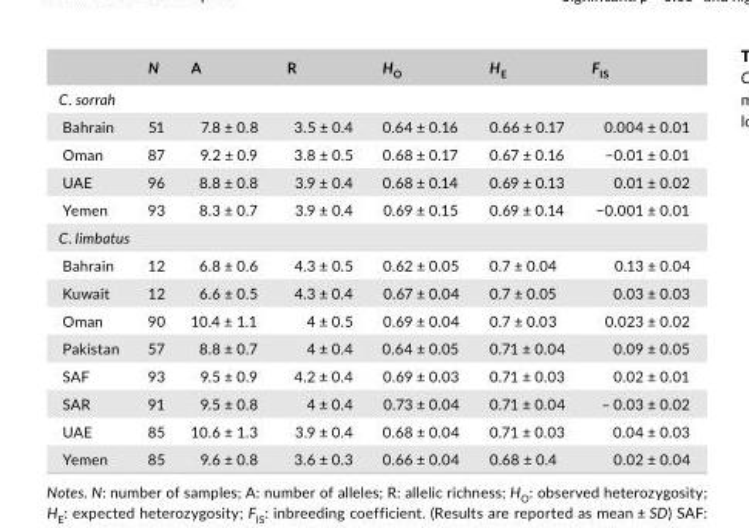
<table><thead><tr><td></td><td>N</td><td>A</td><td>R</td><td>H<sub>O</sub></td><td>H<sub>E</sub></td><td>F<sub>IS</sub></td></tr></thead><tbody><tr><td colspan="7">C. sorrah</td></tr><tr><td>Bahrain</td><td>51</td><td>7.8 ± 0.8</td><td>3.5 ± 0.4</td><td>0.64 ± 0.16</td><td>0.66 ± 0.17</td><td>0.004 ± 0.01</td></tr><tr><td>Oman</td><td>87</td><td>9.2 ± 0.9</td><td>3.8 ± 0.5</td><td>0.68 ± 0.17</td><td>0.67 ± 0.16</td><td>−0.01 ± 0.01</td></tr><tr><td>UAE</td><td>96</td><td>8.8 ± 0.8</td><td>3.9 ± 0.4</td><td>0.68 ± 0.14</td><td>0.69 ± 0.13</td><td>0.01 ± 0.02</td></tr><tr><td>Yemen</td><td>93</td><td>8.3 ± 0.7</td><td>3.9 ± 0.4</td><td>0.69 ± 0.15</td><td>0.69 ± 0.14</td><td>−0.001 ± 0.01</td></tr><tr><td colspan="7">C. limbatus</td></tr><tr><td>Bahrain</td><td>12</td><td>6.8 ± 0.6</td><td>4.3 ± 0.5</td><td>0.62 ± 0.05</td><td>0.7 ± 0.04</td><td>0.13 ± 0.04</td></tr><tr><td>Kuwait</td><td>12</td><td>6.6 ± 0.5</td><td>4.3 ± 0.4</td><td>0.67 ± 0.04</td><td>0.7 ± 0.05</td><td>0.03 ± 0.03</td></tr><tr><td>Oman</td><td>90</td><td>10.4 ± 1.1</td><td>4 ± 0.5</td><td>0.69 ± 0.04</td><td>0.7 ± 0.03</td><td>0.023 ± 0.02</td></tr><tr><td>Pakistan</td><td>57</td><td>8.8 ± 0.7</td><td>4 ± 0.4</td><td>0.64 ± 0.05</td><td>0.71 ± 0.04</td><td>0.09 ± 0.05</td></tr><tr><td>SAF</td><td>93</td><td>9.5 ± 0.9</td><td>4.2 ± 0.4</td><td>0.69 ± 0.03</td><td>0.71 ± 0.03</td><td>0.02 ± 0.01</td></tr><tr><td>SAR</td><td>91</td><td>9.5 ± 0.8</td><td>4 ± 0.4</td><td>0.73 ± 0.04</td><td>0.71 ± 0.04</td><td>− 0.03 ± 0.02</td></tr><tr><td>UAE</td><td>85</td><td>10.6 ± 1.3</td><td>3.9 ± 0.4</td><td>0.68 ± 0.04</td><td>0.71 ± 0.03</td><td>0.04 ± 0.03</td></tr><tr><td>Yemen</td><td>85</td><td>9.6 ± 0.8</td><td>3.6 ± 0.3</td><td>0.66 ± 0.04</td><td>0.68 ± 0.4</td><td>0.02 ± 0.04</td></tr></tbody></table>